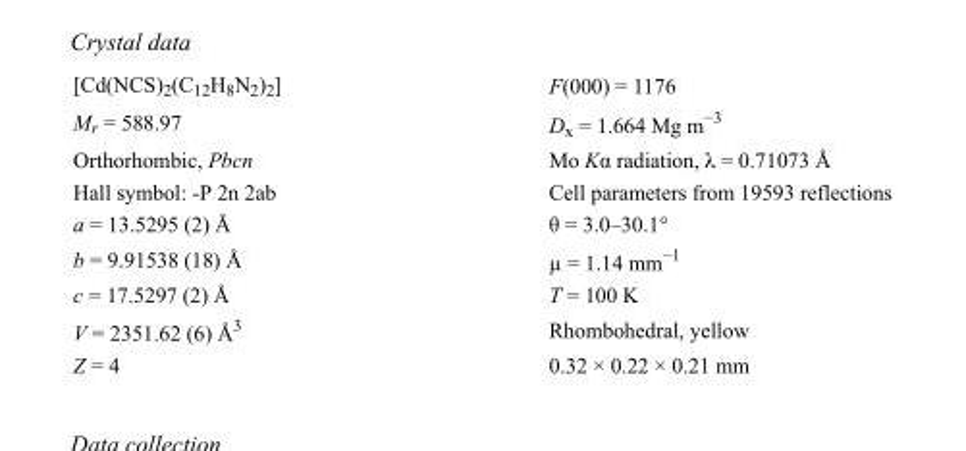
<table><tbody><tr><td>[Cd(NCS)<sub>2</sub>(C<sub>12</sub>H<sub>8</sub>N<sub>2</sub>)<sub>2</sub>]</td><td>F(000) = 1176</td></tr><tr><td>M<sub>r</sub> = 588.97</td><td>D<sub>x</sub> = 1.664 Mg m<sup>−3</sup></td></tr><tr><td>Orthorhombic, Pbcn</td><td>Mo Kα radiation, λ = 0.71073 Å</td></tr><tr><td>Hall symbol: -P 2n 2ab</td><td>Cell parameters from 19593 reflections</td></tr><tr><td>a = 13.5295 (2) Å</td><td>θ = 3.0–30.1°</td></tr><tr><td>b = 9.91538 (18) Å</td><td>µ = 1.14 mm<sup>−1</sup></td></tr><tr><td>c = 17.5297 (2) Å</td><td>T = 100 K</td></tr><tr><td>V = 2351.62 (6) Å<sup>3</sup></td><td>Rhombohedral, yellow</td></tr><tr><td>Z = 4</td><td>0.32 × 0.22 × 0.21 mm</td></tr></tbody></table>